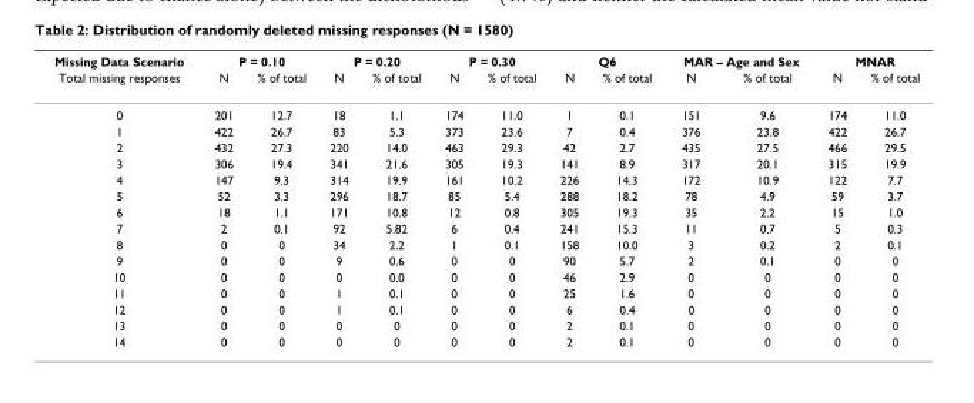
<table><thead><tr><td rowspan="2">Missing Data Scenario Total missing responses</td><td colspan="2">P = 0.10</td><td colspan="2">P = 0.20</td><td colspan="2">P = 0.30</td><td colspan="2">Q6</td><td colspan="2">MAR – Age and Sex</td><td colspan="2">MNAR</td></tr><tr><td>N</td><td>% of total</td><td>N</td><td>% of total</td><td>N</td><td>% of total</td><td>N</td><td>% of total</td><td>N</td><td>% of total</td><td>N</td><td>% of total</td></tr></thead><tbody><tr><td>0</td><td>201</td><td>12.7</td><td>18</td><td>1.1</td><td>174</td><td>11.0</td><td>1</td><td>0.1</td><td>151</td><td>9.6</td><td>174</td><td>11.0</td></tr><tr><td>1</td><td>422</td><td>26.7</td><td>83</td><td>5.3</td><td>373</td><td>23.6</td><td>7</td><td>0.4</td><td>376</td><td>23.8</td><td>422</td><td>26.7</td></tr><tr><td>2</td><td>432</td><td>27.3</td><td>220</td><td>14.0</td><td>463</td><td>29.3</td><td>42</td><td>2.7</td><td>435</td><td>27.5</td><td>466</td><td>29.5</td></tr><tr><td>3</td><td>306</td><td>19.4</td><td>341</td><td>21.6</td><td>305</td><td>19.3</td><td>141</td><td>8.9</td><td>317</td><td>20.1</td><td>315</td><td>19.9</td></tr><tr><td>4</td><td>147</td><td>9.3</td><td>314</td><td>19.9</td><td>161</td><td>10.2</td><td>226</td><td>14.3</td><td>172</td><td>10.9</td><td>122</td><td>7.7</td></tr><tr><td>5</td><td>52</td><td>3.3</td><td>296</td><td>18.7</td><td>85</td><td>5.4</td><td>288</td><td>18.2</td><td>78</td><td>4.9</td><td>59</td><td>3.7</td></tr><tr><td>6</td><td>18</td><td>1.1</td><td>171</td><td>10.8</td><td>12</td><td>0.8</td><td>305</td><td>19.3</td><td>35</td><td>2.2</td><td>15</td><td>1.0</td></tr><tr><td>7</td><td>2</td><td>0.1</td><td>92</td><td>5.82</td><td>6</td><td>0.4</td><td>241</td><td>15.3</td><td>11</td><td>0.7</td><td>5</td><td>0.3</td></tr><tr><td>8</td><td>0</td><td>0</td><td>34</td><td>2.2</td><td>1</td><td>0.1</td><td>158</td><td>10.0</td><td>3</td><td>0.2</td><td>2</td><td>0.1</td></tr><tr><td>9</td><td>0</td><td>0</td><td>9</td><td>0.6</td><td>0</td><td>0</td><td>90</td><td>5.7</td><td>2</td><td>0.1</td><td>0</td><td>0</td></tr><tr><td>10</td><td>0</td><td>0</td><td>0</td><td>0.0</td><td>0</td><td>0</td><td>46</td><td>2.9</td><td>0</td><td>0</td><td>0</td><td>0</td></tr><tr><td>11</td><td>0</td><td>0</td><td>1</td><td>0.1</td><td>0</td><td>0</td><td>25</td><td>1.6</td><td>0</td><td>0</td><td>0</td><td>0</td></tr><tr><td>12</td><td>0</td><td>0</td><td>1</td><td>0.1</td><td>0</td><td>0</td><td>6</td><td>0.4</td><td>0</td><td>0</td><td>0</td><td>0</td></tr><tr><td>13</td><td>0</td><td>0</td><td>0</td><td>0</td><td>0</td><td>0</td><td>2</td><td>0.1</td><td>0</td><td>0</td><td>0</td><td>0</td></tr><tr><td>14</td><td>0</td><td>0</td><td>0</td><td>0</td><td>0</td><td>0</td><td>2</td><td>0.1</td><td>0</td><td>0</td><td>0</td><td>0</td></tr></tbody></table>